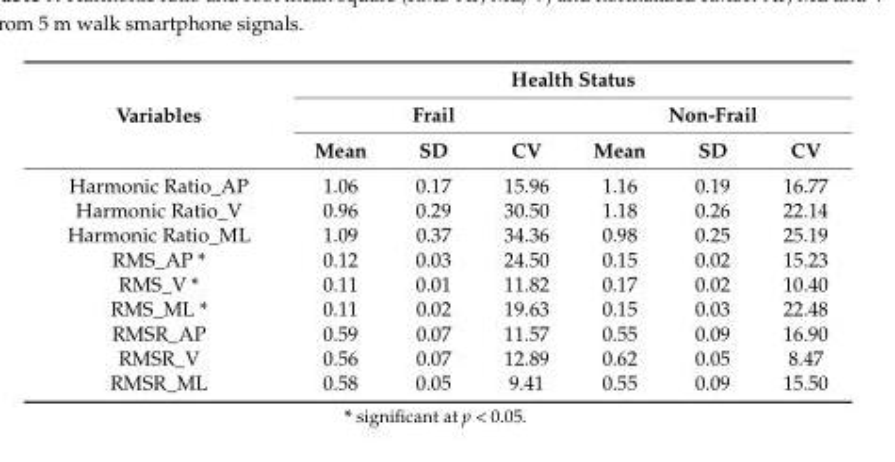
<table><thead><tr><td rowspan="3">Variables</td><td colspan="6">Health Status</td></tr><tr><td colspan="3">Frail</td><td colspan="3">Non-Frail</td></tr><tr><td>Mean</td><td>SD</td><td>CV</td><td>Mean</td><td>SD</td><td>CV</td></tr></thead><tbody><tr><td>Harmonic Ratio_AP</td><td>1.06</td><td>0.17</td><td>15.96</td><td>1.16</td><td>0.19</td><td>16.77</td></tr><tr><td>Harmonic Ratio_V</td><td>0.96</td><td>0.29</td><td>30.50</td><td>1.18</td><td>0.26</td><td>22.14</td></tr><tr><td>Harmonic Ratio_ML</td><td>1.09</td><td>0.37</td><td>34.36</td><td>0.98</td><td>0.25</td><td>25.19</td></tr><tr><td>RMS_AP *</td><td>0.12</td><td>0.03</td><td>24.50</td><td>0.15</td><td>0.02</td><td>15.23</td></tr><tr><td>RMS_V *</td><td>0.11</td><td>0.01</td><td>11.82</td><td>0.17</td><td>0.02</td><td>10.40</td></tr><tr><td>RMS_ML *</td><td>0.11</td><td>0.02</td><td>19.63</td><td>0.15</td><td>0.03</td><td>22.48</td></tr><tr><td>RMSR_AP</td><td>0.59</td><td>0.07</td><td>11.57</td><td>0.55</td><td>0.09</td><td>16.90</td></tr><tr><td>RMSR_V</td><td>0.56</td><td>0.07</td><td>12.89</td><td>0.62</td><td>0.05</td><td>8.47</td></tr><tr><td>RMSR_ML</td><td>0.58</td><td>0.05</td><td>9.41</td><td>0.55</td><td>0.09</td><td>15.50</td></tr></tbody></table>